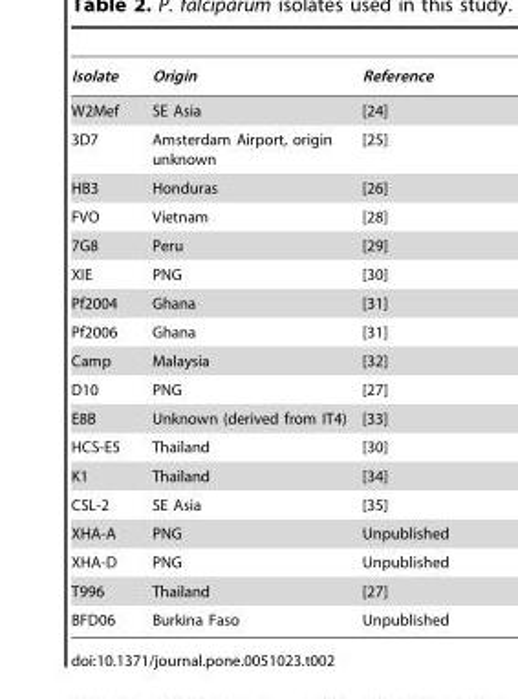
<table><thead><tr><td>Isolate</td><td>Origin</td><td>Reference</td></tr></thead><tbody><tr><td>W2Mef</td><td>SE Asia</td><td>[24]</td></tr><tr><td>3D7</td><td>Amsterdam Airport, origin unknown</td><td>[25]</td></tr><tr><td>HB3</td><td>Honduras</td><td>[26]</td></tr><tr><td>FVO</td><td>Vietnam</td><td>[28]</td></tr><tr><td>7G8</td><td>Peru</td><td>[29]</td></tr><tr><td>XIE</td><td>PNG</td><td>[30]</td></tr><tr><td>Pf2004</td><td>Ghana</td><td>[31]</td></tr><tr><td>Pf2006</td><td>Ghana</td><td>[31]</td></tr><tr><td>Camp</td><td>Malaysia</td><td>[32]</td></tr><tr><td>D10</td><td>PNG</td><td>[27]</td></tr><tr><td>E8B</td><td>Unknown (derived from IT4)</td><td>[33]</td></tr><tr><td>HCS-E5</td><td>Thailand</td><td>[30]</td></tr><tr><td>K1</td><td>Thailand</td><td>[34]</td></tr><tr><td>CSL-2</td><td>SE Asia</td><td>[35]</td></tr><tr><td>XHA-A</td><td>PNG</td><td>Unpublished</td></tr><tr><td>XHA-D</td><td>PNG</td><td>Unpublished</td></tr><tr><td>T996</td><td>Thailand</td><td>[27]</td></tr><tr><td>BFD06</td><td>Burkina Faso</td><td>Unpublished</td></tr></tbody></table>